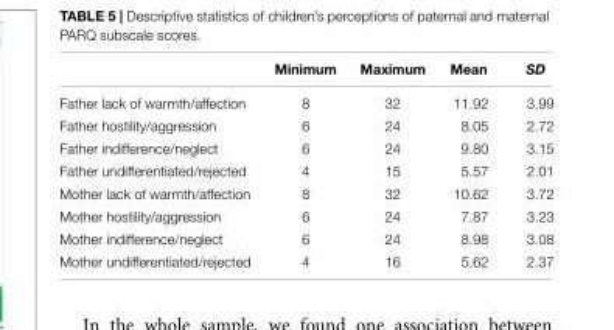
<table><thead><tr><td></td><td>Minimum</td><td>Maximum</td><td>Mean</td><td>SD</td></tr></thead><tbody><tr><td>Father lack of warmth/affection</td><td>8</td><td>32</td><td>11.92</td><td>3.99</td></tr><tr><td>Father hostility/aggression</td><td>6</td><td>24</td><td>8.05</td><td>2.72</td></tr><tr><td>Father indifference/neglect</td><td>6</td><td>24</td><td>9.80</td><td>3.15</td></tr><tr><td>Father undifferentiated/rejected</td><td>4</td><td>15</td><td>5.57</td><td>2.01</td></tr><tr><td>Mother lack of warmth/affection</td><td>8</td><td>32</td><td>10.62</td><td>3.72</td></tr><tr><td>Mother hostility/aggression</td><td>6</td><td>24</td><td>7.87</td><td>3.23</td></tr><tr><td>Mother indifference/neglect</td><td>6</td><td>24</td><td>8.98</td><td>3.08</td></tr><tr><td>Mother undifferentiated/rejected</td><td>4</td><td>16</td><td>5.62</td><td>2.37</td></tr></tbody></table>